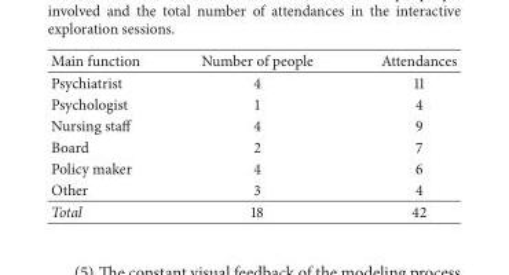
<table><thead><tr><td>Main function</td><td>Number of people</td><td>Attendances</td></tr></thead><tbody><tr><td>Psychiatrist</td><td>4</td><td>11</td></tr><tr><td>Psychologist</td><td>1</td><td>4</td></tr><tr><td>Nursing staff</td><td>4</td><td>9</td></tr><tr><td>Board</td><td>2</td><td>7</td></tr><tr><td>Policy maker</td><td>4</td><td>6</td></tr><tr><td>Other</td><td>3</td><td>4</td></tr><tr><td>Total</td><td>18</td><td>42</td></tr></tbody></table>